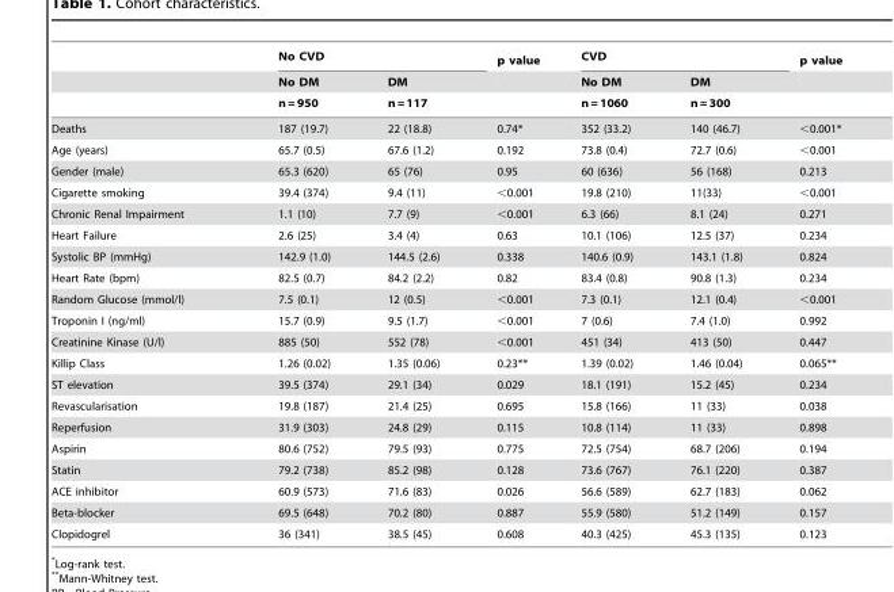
<table><thead><tr><td rowspan="3"></td><td colspan="2">No CVD</td><td rowspan="3">p value</td><td colspan="2">CVD</td><td rowspan="3">p value</td></tr><tr><td rowspan="2">No DM n = 950</td><td rowspan="2">DM n = 117</td><td rowspan="2">No DM n = 1060</td><td rowspan="2">DM n = 300</td></tr><tr></tr></thead><tbody><tr><td>Deaths</td><td>187 (19.7)</td><td>22 (18.8)</td><td>0.74*</td><td>352 (33.2)</td><td>140 (46.7)</td><td>&lt;0.001*</td></tr><tr><td>Age (years)</td><td>65.7 (0.5)</td><td>67.6 (1.2)</td><td>0.192</td><td>73.8 (0.4)</td><td>72.7 (0.6)</td><td>&lt;0.001</td></tr><tr><td>Gender (male)</td><td>65.3 (620)</td><td>65 (76)</td><td>0.95</td><td>60 (636)</td><td>56 (168)</td><td>0.213</td></tr><tr><td>Cigarette smoking</td><td>39.4 (374)</td><td>9.4 (11)</td><td>&lt;0.001</td><td>19.8 (210)</td><td>11(33)</td><td>&lt;0.001</td></tr><tr><td>Chronic Renal Impairment</td><td>1.1 (10)</td><td>7.7 (9)</td><td>&lt;0.001</td><td>6.3 (66)</td><td>8.1 (24)</td><td>0.271</td></tr><tr><td>Heart Failure</td><td>2.6 (25)</td><td>3.4 (4)</td><td>0.63</td><td>10.1 (106)</td><td>12.5 (37)</td><td>0.234</td></tr><tr><td>Systolic BP (mmHg)</td><td>142.9 (1.0)</td><td>144.5 (2.6)</td><td>0.338</td><td>140.6 (0.9)</td><td>143.1 (1.8)</td><td>0.824</td></tr><tr><td>Heart Rate (bpm)</td><td>82.5 (0.7)</td><td>84.2 (2.2)</td><td>0.82</td><td>83.4 (0.8)</td><td>90.8 (1.3)</td><td>0.234</td></tr><tr><td>Random Glucose (mmol/l)</td><td>7.5 (0.1)</td><td>12 (0.5)</td><td>&lt;0.001</td><td>7.3 (0.1)</td><td>12.1 (0.4)</td><td>&lt;0.001</td></tr><tr><td>Troponin I (ng/ml)</td><td>15.7 (0.9)</td><td>9.5 (1.7)</td><td>&lt;0.001</td><td>7 (0.6)</td><td>7.4 (1.0)</td><td>0.992</td></tr><tr><td>Creatinine Kinase (U/l)</td><td>885 (50)</td><td>552 (78)</td><td>&lt;0.001</td><td>451 (34)</td><td>413 (50)</td><td>0.447</td></tr><tr><td>Killip Class</td><td>1.26 (0.02)</td><td>1.35 (0.06)</td><td>0.23**</td><td>1.39 (0.02)</td><td>1.46 (0.04)</td><td>0.065**</td></tr><tr><td>ST elevation</td><td>39.5 (374)</td><td>29.1 (34)</td><td>0.029</td><td>18.1 (191)</td><td>15.2 (45)</td><td>0.234</td></tr><tr><td>Revascularisation</td><td>19.8 (187)</td><td>21.4 (25)</td><td>0.695</td><td>15.8 (166)</td><td>11 (33)</td><td>0.038</td></tr><tr><td>Reperfusion</td><td>31.9 (303)</td><td>24.8 (29)</td><td>0.115</td><td>10.8 (114)</td><td>11 (33)</td><td>0.898</td></tr><tr><td>Aspirin</td><td>80.6 (752)</td><td>79.5 (93)</td><td>0.775</td><td>72.5 (754)</td><td>68.7 (206)</td><td>0.194</td></tr><tr><td>Statin</td><td>79.2 (738)</td><td>85.2 (98)</td><td>0.128</td><td>73.6 (767)</td><td>76.1 (220)</td><td>0.387</td></tr><tr><td>ACE inhibitor</td><td>60.9 (573)</td><td>71.6 (83)</td><td>0.026</td><td>56.6 (589)</td><td>62.7 (183)</td><td>0.062</td></tr><tr><td>Beta-blocker</td><td>69.5 (648)</td><td>70.2 (80)</td><td>0.887</td><td>55.9 (580)</td><td>51.2 (149)</td><td>0.157</td></tr><tr><td>Clopidogrel</td><td>36 (341)</td><td>38.5 (45)</td><td>0.608</td><td>40.3 (425)</td><td>45.3 (135)</td><td>0.123</td></tr></tbody></table>